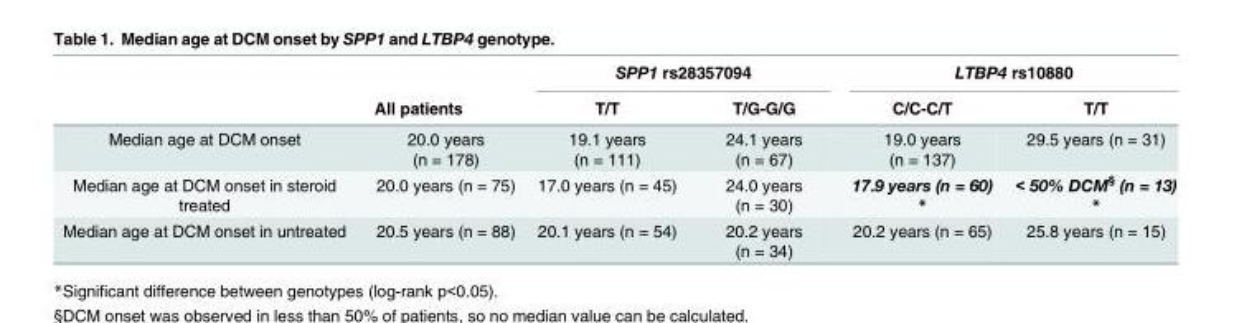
<table><thead><tr><td rowspan="2"></td><td rowspan="2">All patients</td><td colspan="2">SPP1 rs28357094</td><td colspan="2">LTBP4 rs10880</td></tr><tr><td>T/T</td><td>T/G-G/G</td><td>C/C-C/T</td><td>T/T</td></tr></thead><tbody><tr><td>Median age at DCM onset</td><td>20.0 years (n = 178)</td><td>19.1 years (n = 111)</td><td>24.1 years (n = 67)</td><td>19.0 years (n = 137)</td><td>29.5 years (n = 31)</td></tr><tr><td>Median age at DCM onset in steroid treated</td><td>20.0 years (n = 75)</td><td>17.0 years (n = 45)</td><td>24.0 years (n = 30)</td><td>17.9 years (n = 60) *</td><td>&lt; 50% DCM<sup>§</sup> (n = 13) *</td></tr><tr><td>Median age at DCM onset in untreated</td><td>20.5 years (n = 88)</td><td>20.1 years (n = 54)</td><td>20.2 years (n = 34)</td><td>20.2 years (n = 65)</td><td>25.8 years (n = 15)</td></tr></tbody></table>